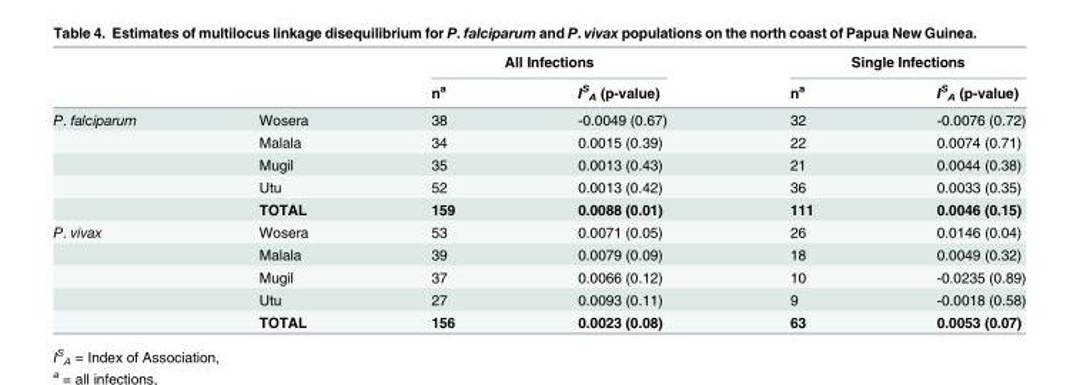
<table><thead><tr><td rowspan="2"></td><td rowspan="2"></td><td colspan="2">All Infections</td><td colspan="2">Single Infections</td></tr><tr><td>n<sup>a</sup></td><td>I<sup>S</sup> <sub>A</sub> (p-value)</td><td>n<sup>a</sup></td><td>I<sup>S</sup> <sub>A</sub> (p-value)</td></tr></thead><tbody><tr><td rowspan="5">P. falciparum</td><td>Wosera</td><td>38</td><td>-0.0049 (0.67)</td><td>32</td><td>-0.0076 (0.72)</td></tr><tr><td>Malala</td><td>34</td><td>0.0015 (0.39)</td><td>22</td><td>0.0074 (0.71)</td></tr><tr><td>Mugil</td><td>35</td><td>0.0013 (0.43)</td><td>21</td><td>0.0044 (0.38)</td></tr><tr><td>Utu</td><td>52</td><td>0.0013 (0.42)</td><td>36</td><td>0.0033 (0.35)</td></tr><tr><td>TOTAL</td><td>159</td><td>0.0088 (0.01)</td><td>111</td><td>0.0046 (0.15)</td></tr><tr><td rowspan="5">P. vivax</td><td>Wosera</td><td>53</td><td>0.0071 (0.05)</td><td>26</td><td>0.0146 (0.04)</td></tr><tr><td>Malala</td><td>39</td><td>0.0079 (0.09)</td><td>18</td><td>0.0049 (0.32)</td></tr><tr><td>Mugil</td><td>37</td><td>0.0066 (0.12)</td><td>10</td><td>-0.0235 (0.89)</td></tr><tr><td>Utu</td><td>27</td><td>0.0093 (0.11)</td><td>9</td><td>-0.0018 (0.58)</td></tr><tr><td>TOTAL</td><td>156</td><td>0.0023 (0.08)</td><td>63</td><td>0.0053 (0.07)</td></tr></tbody></table>